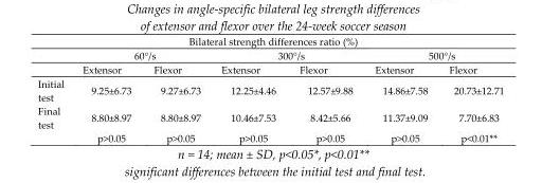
<table><thead><tr><td colspan="7">Bilateral strength differences ratio (%)</td></tr><tr><td rowspan="2"></td><td colspan="2">60°/s</td><td colspan="2">300°/s</td><td colspan="2">500°/s</td></tr><tr><td>Extensor</td><td>Flexor</td><td>Extensor</td><td>Flexor</td><td>Extensor</td><td>Flexor</td></tr></thead><tbody><tr><td>Initial test</td><td>9.25±6.73</td><td>9.27±6.73</td><td>12.25±4.46</td><td>12.57±9.88</td><td>14.86±7.58</td><td>20.73±12.71</td></tr><tr><td rowspan="2">Final test</td><td>8.80±8.97</td><td>8.80±8.97</td><td>10.46±7.53</td><td>8.42±5.66</td><td>11.37±9.09</td><td>7.70±6.83</td></tr><tr><td>p&gt;0.05</td><td>p&gt;0.05</td><td>p&gt;0.05</td><td>p&gt;0.05</td><td>p&gt;0.05</td><td>p&lt;0.01**</td></tr></tbody></table>